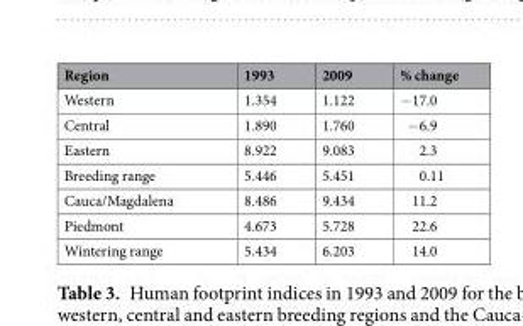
<table><thead><tr><td>Region</td><td>1993</td><td>2009</td><td>% change</td></tr></thead><tbody><tr><td>Western</td><td>1.354</td><td>1.122</td><td>−17.0</td></tr><tr><td>Central</td><td>1.890</td><td>1.760</td><td>−6.9</td></tr><tr><td>Eastern</td><td>8.922</td><td>9.083</td><td>2.3</td></tr><tr><td>Breeding range</td><td>5.446</td><td>5.451</td><td>0.11</td></tr><tr><td>Cauca/Magdalena</td><td>8.486</td><td>9.434</td><td>11.2</td></tr><tr><td>Piedmont</td><td>4.673</td><td>5.728</td><td>22.6</td></tr><tr><td>Wintering range</td><td>5.434</td><td>6.203</td><td>14.0</td></tr></tbody></table>